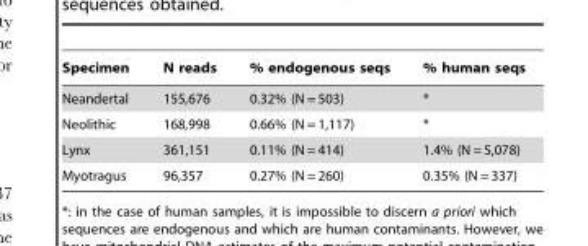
<table><thead><tr><td>Specimen</td><td>N reads</td><td>% endogenous seqs</td><td>% human seqs</td></tr></thead><tbody><tr><td>Neandertal</td><td>155,676</td><td>0.32% (N = 503)</td><td>*</td></tr><tr><td>Neolithic</td><td>168,998</td><td>0.66% (N = 1,117)</td><td>*</td></tr><tr><td>Lynx</td><td>361,151</td><td>0.11% (N = 414)</td><td>1.4% (N = 5,078)</td></tr><tr><td>Myotragus</td><td>96,357</td><td>0.27% (N = 260)</td><td>0.35% (N = 337)</td></tr></tbody></table>